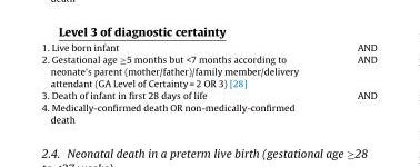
<table><tbody><tr><td>1. Live born infant</td><td>AND</td></tr><tr><td>2. Gestational age ≥5 months but &lt;7 months according to neonate’s parent (mother/father)/family member/delivery attendant (GA Level of Certainty = 2 OR 3) [28]</td><td>AND</td></tr><tr><td>3. Death of infant in first 28 days of life</td><td>AND</td></tr><tr><td>4. Medically-confirmed death OR non-medically-confirmed death</td><td></td></tr></tbody></table>